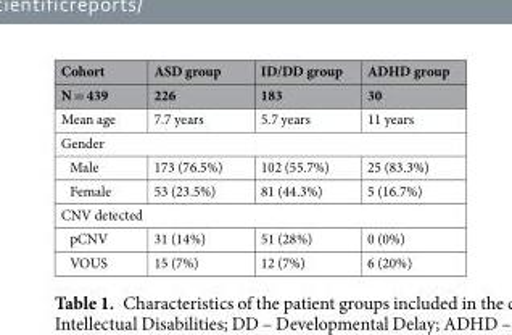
<table><thead><tr><td rowspan="2">Cohort N = 439</td><td rowspan="2">ASD group 226</td><td rowspan="2">ID/DD group 183</td><td rowspan="2">ADHD group 30</td></tr><tr></tr></thead><tbody><tr><td>Mean age</td><td>7.7 years</td><td>5.7 years</td><td>11 years</td></tr><tr><td colspan="4">Gender</td></tr><tr><td>Male</td><td>173 (76.5%)</td><td>102 (55.7%)</td><td>25 (83.3%)</td></tr><tr><td>Female</td><td>53 (23.5%)</td><td>81 (44.3%)</td><td>5 (16.7%)</td></tr><tr><td colspan="4">CNV detected</td></tr><tr><td>pCNV</td><td>31 (14%)</td><td>51 (28%)</td><td>0 (0%)</td></tr><tr><td>VOUS</td><td>15 (7%)</td><td>12 (7%)</td><td>6 (20%)</td></tr></tbody></table>